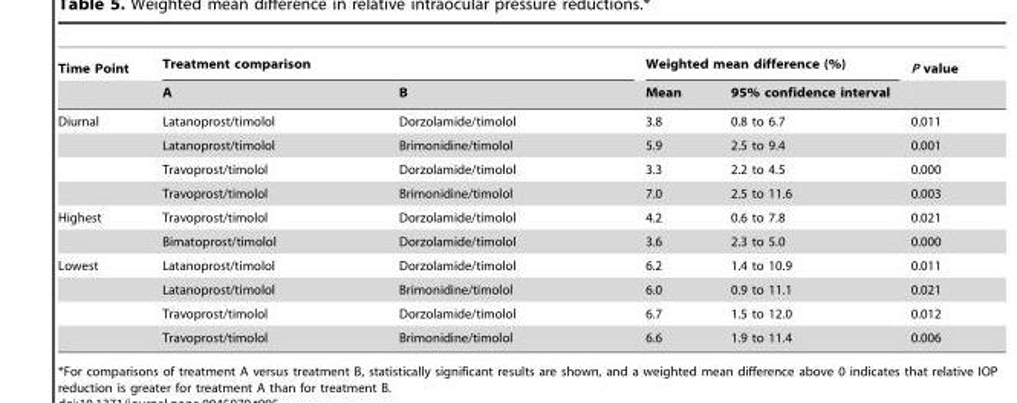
<table><thead><tr><td rowspan="2">Time Point</td><td colspan="2">Treatment comparison</td><td colspan="2">Weighted mean difference (%)</td><td rowspan="2">P value</td></tr><tr><td>A</td><td>B</td><td>Mean</td><td>95% confidence interval</td></tr></thead><tbody><tr><td rowspan="4">Diurnal</td><td>Latanoprost/timolol</td><td>Dorzolamide/timolol</td><td>3.8</td><td>0.8 to 6.7</td><td>0.011</td></tr><tr><td>Latanoprost/timolol</td><td>Brimonidine/timolol</td><td>5.9</td><td>2.5 to 9.4</td><td>0.001</td></tr><tr><td>Travoprost/timolol</td><td>Dorzolamide/timolol</td><td>3.3</td><td>2.2 to 4.5</td><td>0.000</td></tr><tr><td>Travoprost/timolol</td><td>Brimonidine/timolol</td><td>7.0</td><td>2.5 to 11.6</td><td>0.003</td></tr><tr><td rowspan="2">Highest</td><td>Travoprost/timolol</td><td>Dorzolamide/timolol</td><td>4.2</td><td>0.6 to 7.8</td><td>0.021</td></tr><tr><td>Bimatoprost/timolol</td><td>Dorzolamide/timolol</td><td>3.6</td><td>2.3 to 5.0</td><td>0.000</td></tr><tr><td rowspan="4">Lowest</td><td>Latanoprost/timolol</td><td>Dorzolamide/timolol</td><td>6.2</td><td>1.4 to 10.9</td><td>0.011</td></tr><tr><td>Latanoprost/timolol</td><td>Brimonidine/timolol</td><td>6.0</td><td>0.9 to 11.1</td><td>0.021</td></tr><tr><td>Travoprost/timolol</td><td>Dorzolamide/timolol</td><td>6.7</td><td>1.5 to 12.0</td><td>0.012</td></tr><tr><td>Travoprost/timolol</td><td>Brimonidine/timolol</td><td>6.6</td><td>1.9 to 11.4</td><td>0.006</td></tr></tbody></table>